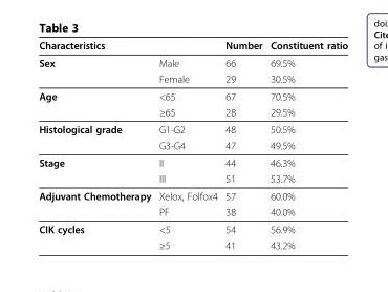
<table><thead><tr><td>Characteristics</td><td></td><td>Number</td><td>Constituent ratio</td></tr></thead><tbody><tr><td rowspan="2">Sex</td><td>Male</td><td>66</td><td>69.5%</td></tr><tr><td>Female</td><td>29</td><td>30.5%</td></tr><tr><td rowspan="2">Age</td><td>&lt;65</td><td>67</td><td>70.5%</td></tr><tr><td>≥65</td><td>28</td><td>29.5%</td></tr><tr><td rowspan="2">Histological grade</td><td>G1-G2</td><td>48</td><td>50.5%</td></tr><tr><td>G3-G4</td><td>47</td><td>49.5%</td></tr><tr><td rowspan="2">Stage</td><td>II</td><td>44</td><td>46.3%</td></tr><tr><td>III</td><td>51</td><td>53.7%</td></tr><tr><td rowspan="2">Adjuvant Chemotherapy</td><td>Xelox, Folfox4</td><td>57</td><td>60.0%</td></tr><tr><td>PF</td><td>38</td><td>40.0%</td></tr><tr><td rowspan="2">CIK cycles</td><td>&lt;5</td><td>54</td><td>56.9%</td></tr><tr><td>≥5</td><td>41</td><td>43.2%</td></tr></tbody></table>